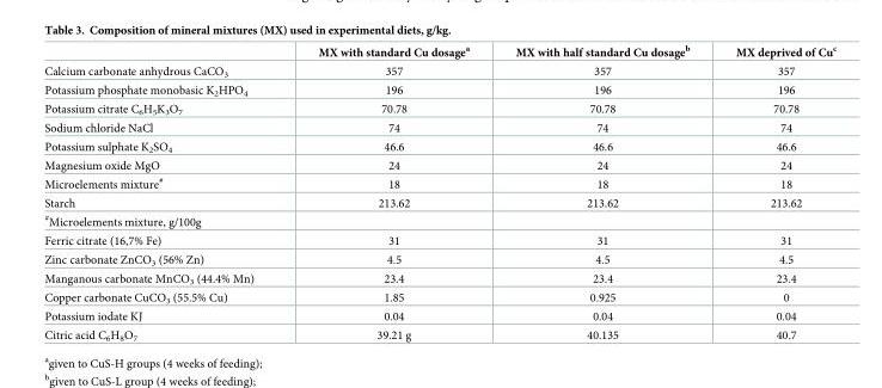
<table><thead><tr><td></td><td>MX with standard Cu dosage<sup>a</sup></td><td>MX with half standard Cu dosage<sup>b</sup></td><td>MX deprived of Cu<sup>c</sup></td></tr></thead><tbody><tr><td>Calcium carbonate anhydrous CaCO<sub>3</sub></td><td>357</td><td>357</td><td>357</td></tr><tr><td>Potassium phosphate monobasic K<sub>2</sub>HPO<sub>4</sub></td><td>196</td><td>196</td><td>196</td></tr><tr><td>Potassium citrate C<sub>6</sub>H<sub>5</sub>K<sub>3</sub>O<sub>7</sub></td><td>70.78</td><td>70.78</td><td>70.78</td></tr><tr><td>Sodium chloride NaCl</td><td>74</td><td>74</td><td>74</td></tr><tr><td>Potassium sulphate K<sub>2</sub>SO<sub>4</sub></td><td>46.6</td><td>46.6</td><td>46.6</td></tr><tr><td>Magnesium oxide MgO</td><td>24</td><td>24</td><td>24</td></tr><tr><td>Microelements mixture<sup>#</sup></td><td>18</td><td>18</td><td>18</td></tr><tr><td>Starch</td><td>213.62</td><td>213.62</td><td>213.62</td></tr><tr><td colspan="4"><sup>#</sup>Microelements mixture, g/100g</td></tr><tr><td>Ferric citrate (16,7% Fe)</td><td>31</td><td>31</td><td>31</td></tr><tr><td>Zinc carbonate ZnCO<sub>3</sub> (56% Zn)</td><td>4.5</td><td>4.5</td><td>4.5</td></tr><tr><td>Manganous carbonate MnCO<sub>3</sub> (44.4% Mn)</td><td>23.4</td><td>23.4</td><td>23.4</td></tr><tr><td>Copper carbonate CuCO<sub>3</sub> (55.5% Cu)</td><td>1.85</td><td>0.925</td><td>0</td></tr><tr><td>Potassium iodate KJ</td><td>0.04</td><td>0.04</td><td>0.04</td></tr><tr><td>Citric acid C<sub>6</sub>H<sub>8</sub>O<sub>7</sub></td><td>39.21 g</td><td>40.135</td><td>40.7</td></tr></tbody></table>